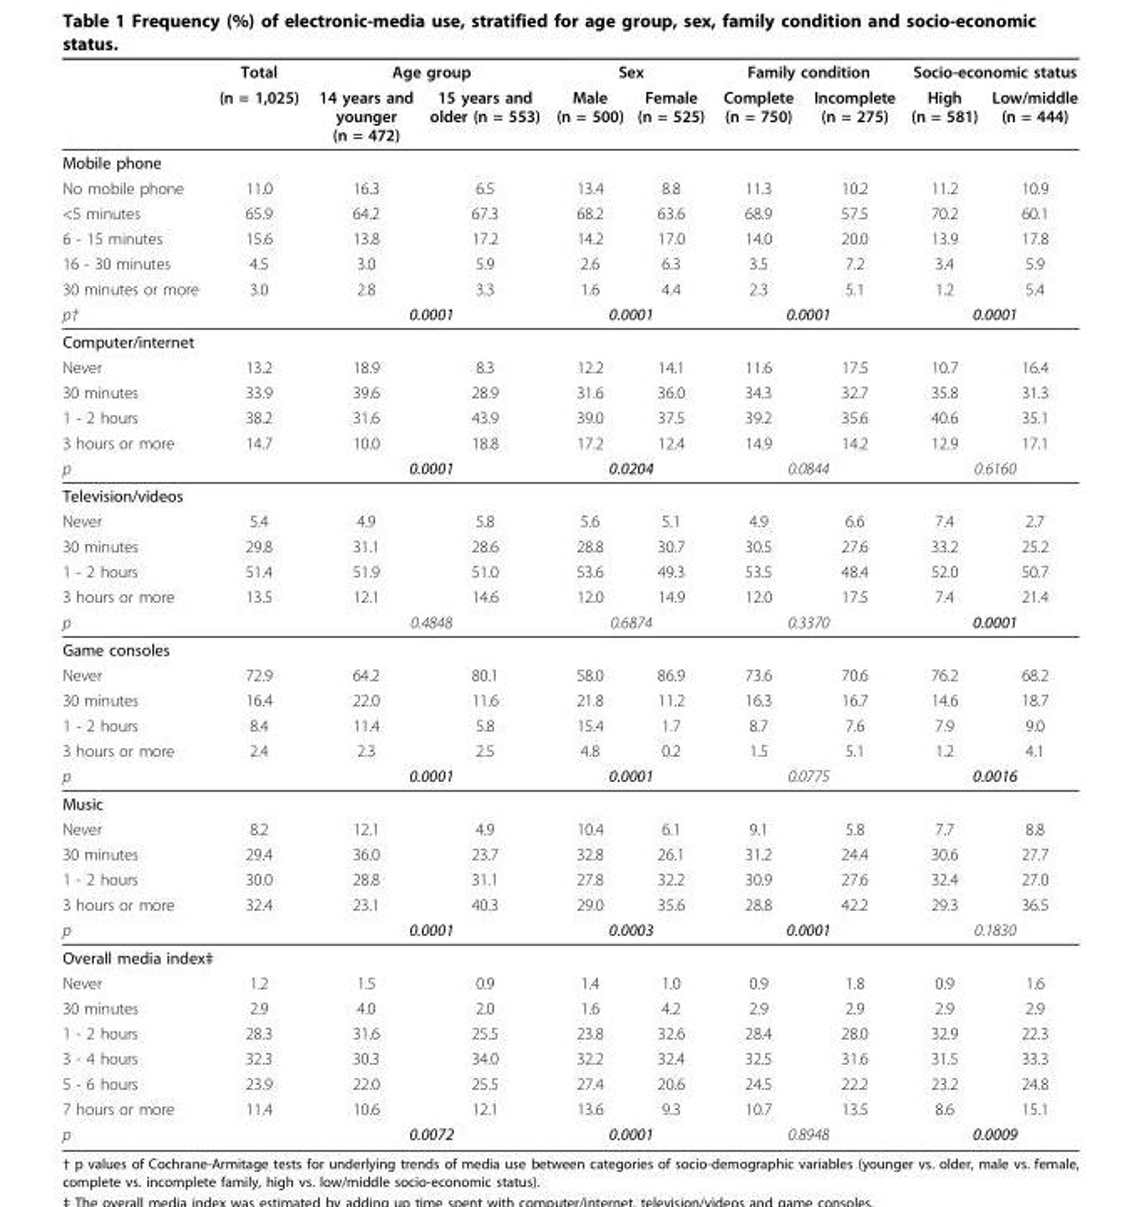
<table><thead><tr><td rowspan="2"></td><td rowspan="2">Total (n = 1,025)</td><td colspan="2">Age group</td><td colspan="2">Sex</td><td colspan="2">Family condition</td><td colspan="2">Socio-economic status</td></tr><tr><td>14 years and younger (n = 472)</td><td>15 years and older (n = 553)</td><td>Male (n = 500)</td><td>Female (n = 525)</td><td>Complete (n = 750)</td><td>Incomplete (n = 275)</td><td>High (n = 581)</td><td>Low/middle (n = 444)</td></tr></thead><tbody><tr><td colspan="10">Mobile phone</td></tr><tr><td>No mobile phone</td><td>11.0</td><td>16.3</td><td>6.5</td><td>13.4</td><td>8.8</td><td>11.3</td><td>10.2</td><td>11.2</td><td>10.9</td></tr><tr><td>&lt;5 minutes</td><td>65.9</td><td>64.2</td><td>67.3</td><td>68.2</td><td>63.6</td><td>68.9</td><td>57.5</td><td>70.2</td><td>60.1</td></tr><tr><td>6 - 15 minutes</td><td>15.6</td><td>13.8</td><td>17.2</td><td>14.2</td><td>17.0</td><td>14.0</td><td>20.0</td><td>13.9</td><td>17.8</td></tr><tr><td>16 - 30 minutes</td><td>4.5</td><td>3.0</td><td>5.9</td><td>2.6</td><td>6.3</td><td>3.5</td><td>7.2</td><td>3.4</td><td>5.9</td></tr><tr><td>30 minutes or more</td><td>3.0</td><td>2.8</td><td>3.3</td><td>1.6</td><td>4.4</td><td>2.3</td><td>5.1</td><td>1.2</td><td>5.4</td></tr><tr><td>p†</td><td></td><td colspan="2">0.0001</td><td colspan="2">0.0001</td><td colspan="2">0.0001</td><td colspan="2">0.0001</td></tr><tr><td colspan="10">Computer/internet</td></tr><tr><td>Never</td><td>13.2</td><td>18.9</td><td>8.3</td><td>12.2</td><td>14.1</td><td>11.6</td><td>17.5</td><td>10.7</td><td>16.4</td></tr><tr><td>30 minutes</td><td>33.9</td><td>39.6</td><td>28.9</td><td>31.6</td><td>36.0</td><td>34.3</td><td>32.7</td><td>35.8</td><td>31.3</td></tr><tr><td>1 - 2 hours</td><td>38.2</td><td>31.6</td><td>43.9</td><td>39.0</td><td>37.5</td><td>39.2</td><td>35.6</td><td>40.6</td><td>35.1</td></tr><tr><td>3 hours or more</td><td>14.7</td><td>10.0</td><td>18.8</td><td>17.2</td><td>12.4</td><td>14.9</td><td>14.2</td><td>12.9</td><td>17.1</td></tr><tr><td>p</td><td></td><td colspan="2">0.0001</td><td colspan="2">0.0204</td><td colspan="2">0.0844</td><td colspan="2">0.6160</td></tr><tr><td colspan="10">Television/videos</td></tr><tr><td>Never</td><td>5.4</td><td>4.9</td><td>5.8</td><td>5.6</td><td>5.1</td><td>4.9</td><td>6.6</td><td>7.4</td><td>2.7</td></tr><tr><td>30 minutes</td><td>29.8</td><td>31.1</td><td>28.6</td><td>28.8</td><td>30.7</td><td>30.5</td><td>27.6</td><td>33.2</td><td>25.2</td></tr><tr><td>1 - 2 hours</td><td>51.4</td><td>51.9</td><td>51.0</td><td>53.6</td><td>49.3</td><td>53.5</td><td>48.4</td><td>52.0</td><td>50.7</td></tr><tr><td>3 hours or more</td><td>13.5</td><td>12.1</td><td>14.6</td><td>12.0</td><td>14.9</td><td>12.0</td><td>17.5</td><td>7.4</td><td>21.4</td></tr><tr><td>p</td><td></td><td colspan="2">0.4848</td><td colspan="2">0.6874</td><td colspan="2">0.3370</td><td colspan="2">0.0001</td></tr><tr><td colspan="10">Game consoles</td></tr><tr><td>Never</td><td>72.9</td><td>64.2</td><td>80.1</td><td>58.0</td><td>86.9</td><td>73.6</td><td>70.6</td><td>76.2</td><td>68.2</td></tr><tr><td>30 minutes</td><td>16.4</td><td>22.0</td><td>11.6</td><td>21.8</td><td>11.2</td><td>16.3</td><td>16.7</td><td>14.6</td><td>18.7</td></tr><tr><td>1 - 2 hours</td><td>8.4</td><td>11.4</td><td>5.8</td><td>15.4</td><td>1.7</td><td>8.7</td><td>7.6</td><td>7.9</td><td>9.0</td></tr><tr><td>3 hours or more</td><td>2.4</td><td>2.3</td><td>2.5</td><td>4.8</td><td>0.2</td><td>1.5</td><td>5.1</td><td>1.2</td><td>4.1</td></tr><tr><td>p</td><td></td><td colspan="2">0.0001</td><td colspan="2">0.0001</td><td colspan="2">0.0775</td><td colspan="2">0.0016</td></tr><tr><td colspan="10">Music</td></tr><tr><td>Never</td><td>8.2</td><td>12.1</td><td>4.9</td><td>10.4</td><td>6.1</td><td>9.1</td><td>5.8</td><td>7.7</td><td>8.8</td></tr><tr><td>30 minutes</td><td>29.4</td><td>36.0</td><td>23.7</td><td>32.8</td><td>26.1</td><td>31.2</td><td>24.4</td><td>30.6</td><td>27.7</td></tr><tr><td>1 - 2 hours</td><td>30.0</td><td>28.8</td><td>31.1</td><td>27.8</td><td>32.2</td><td>30.9</td><td>27.6</td><td>32.4</td><td>27.0</td></tr><tr><td>3 hours or more</td><td>32.4</td><td>23.1</td><td>40.3</td><td>29.0</td><td>35.6</td><td>28.8</td><td>42.2</td><td>29.3</td><td>36.5</td></tr><tr><td>p</td><td></td><td colspan="2">0.0001</td><td colspan="2">0.0003</td><td colspan="2">0.0001</td><td colspan="2">0.1830</td></tr><tr><td colspan="10">Overall media index‡</td></tr><tr><td>Never</td><td>1.2</td><td>1.5</td><td>0.9</td><td>1.4</td><td>1.0</td><td>0.9</td><td>1.8</td><td>0.9</td><td>1.6</td></tr><tr><td>30 minutes</td><td>2.9</td><td>4.0</td><td>2.0</td><td>1.6</td><td>4.2</td><td>2.9</td><td>2.9</td><td>2.9</td><td>2.9</td></tr><tr><td>1 - 2 hours</td><td>28.3</td><td>31.6</td><td>25.5</td><td>23.8</td><td>32.6</td><td>28.4</td><td>28.0</td><td>32.9</td><td>22.3</td></tr><tr><td>3 - 4 hours</td><td>32.3</td><td>30.3</td><td>34.0</td><td>32.2</td><td>32.4</td><td>32.5</td><td>31.6</td><td>31.5</td><td>33.3</td></tr><tr><td>5 - 6 hours</td><td>23.9</td><td>22.0</td><td>25.5</td><td>27.4</td><td>20.6</td><td>24.5</td><td>22.2</td><td>23.2</td><td>24.8</td></tr><tr><td>7 hours or more</td><td>11.4</td><td>10.6</td><td>12.1</td><td>13.6</td><td>9.3</td><td>10.7</td><td>13.5</td><td>8.6</td><td>15.1</td></tr><tr><td>p</td><td></td><td colspan="2">0.0072</td><td colspan="2">0.0001</td><td colspan="2">0.8948</td><td colspan="2">0.0009</td></tr></tbody></table>